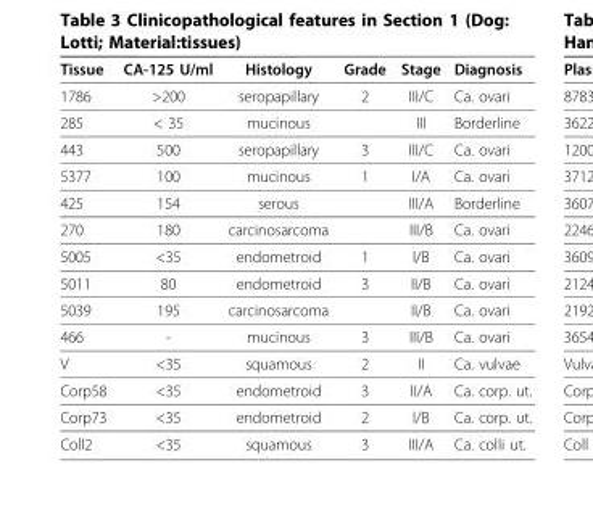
<table><thead><tr><td>Tissue</td><td>CA-125 U/ml</td><td>Histology</td><td>Grade</td><td>Stage</td><td>Diagnosis</td></tr></thead><tbody><tr><td>1786</td><td>&gt;200</td><td>seropapillary</td><td>2</td><td>III/C</td><td>Ca. ovari</td></tr><tr><td>285</td><td>&lt; 35</td><td>mucinous</td><td></td><td>III</td><td>Borderline</td></tr><tr><td>443</td><td>500</td><td>seropapillary</td><td>3</td><td>III/C</td><td>Ca. ovari</td></tr><tr><td>5377</td><td>100</td><td>mucinous</td><td>1</td><td>I/A</td><td>Ca. ovari</td></tr><tr><td>425</td><td>154</td><td>serous</td><td></td><td>III/A</td><td>Borderline</td></tr><tr><td>270</td><td>180</td><td>carcinosarcoma</td><td></td><td>III/B</td><td>Ca. ovari</td></tr><tr><td>5005</td><td>&lt;35</td><td>endometroid</td><td>1</td><td>I/B</td><td>Ca. ovari</td></tr><tr><td>5011</td><td>80</td><td>endometroid</td><td>3</td><td>II/B</td><td>Ca. ovari</td></tr><tr><td>5039</td><td>195</td><td>carcinosarcoma</td><td></td><td>II/B</td><td>Ca. ovari</td></tr><tr><td>466</td><td>-</td><td>mucinous</td><td>3</td><td>III/B</td><td>Ca. ovari</td></tr><tr><td>V</td><td>&lt;35</td><td>squamous</td><td>2</td><td>II</td><td>Ca. vulvae</td></tr><tr><td>Corp58</td><td>&lt;35</td><td>endometroid</td><td>3</td><td>II/A</td><td>Ca. corp. ut.</td></tr><tr><td>Corp73</td><td>&lt;35</td><td>endometroid</td><td>2</td><td>I/B</td><td>Ca. corp. ut.</td></tr><tr><td>Coll2</td><td>&lt;35</td><td>squamous</td><td>3</td><td>III/A</td><td>Ca. colli ut.</td></tr></tbody></table>